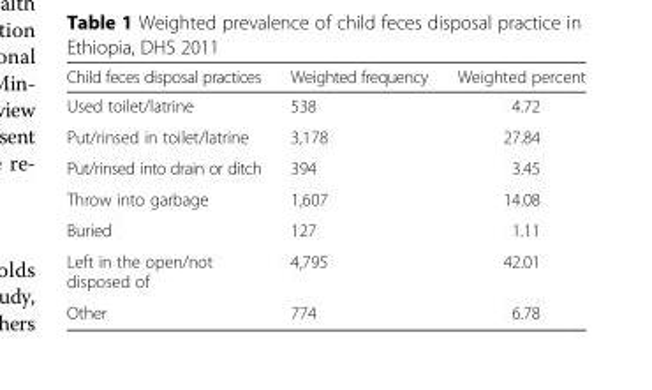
<table><thead><tr><td>Child feces disposal practices</td><td>Weighted frequency</td><td>Weighted percent</td></tr></thead><tbody><tr><td>Used toilet/latrine</td><td>538</td><td>4.72</td></tr><tr><td>Put/rinsed in toilet/latrine</td><td>3,178</td><td>27.84</td></tr><tr><td>Put/rinsed into drain or ditch</td><td>394</td><td>3.45</td></tr><tr><td>Throw into garbage</td><td>1,607</td><td>14.08</td></tr><tr><td>Buried</td><td>127</td><td>1.11</td></tr><tr><td>Left in the open/not disposed of</td><td>4,795</td><td>42.01</td></tr><tr><td>Other</td><td>774</td><td>6.78</td></tr></tbody></table>